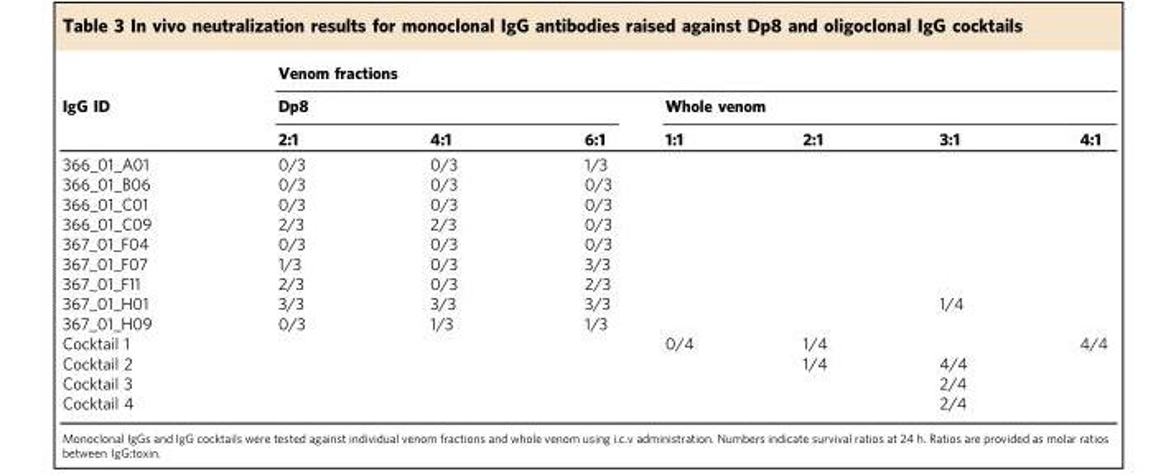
<table><thead><tr><td rowspan="3">IgG ID</td><td colspan="7">Venom fractions</td></tr><tr><td colspan="3">Dp8</td><td colspan="4">Whole venom</td></tr><tr><td>2:1</td><td>4:1</td><td>6:1</td><td>1:1</td><td>2:1</td><td>3:1</td><td>4:1</td></tr></thead><tbody><tr><td>366_01_A01</td><td>0/3</td><td>0/3</td><td>1/3</td><td></td><td></td><td></td><td></td></tr><tr><td>366_01_B06</td><td>0/3</td><td>0/3</td><td>0/3</td><td></td><td></td><td></td><td></td></tr><tr><td>366_01_C01</td><td>0/3</td><td>0/3</td><td>0/3</td><td></td><td></td><td></td><td></td></tr><tr><td>366_01_C09</td><td>2/3</td><td>2/3</td><td>0/3</td><td></td><td></td><td></td><td></td></tr><tr><td>367_01_F04</td><td>0/3</td><td>0/3</td><td>0/3</td><td></td><td></td><td></td><td></td></tr><tr><td>367_01_F07</td><td>1/3</td><td>0/3</td><td>3/3</td><td></td><td></td><td></td><td></td></tr><tr><td>367_01_F11</td><td>2/3</td><td>0/3</td><td>2/3</td><td></td><td></td><td></td><td></td></tr><tr><td>367_01_H01</td><td>3/3</td><td>3/3</td><td>3/3</td><td></td><td></td><td>1/4</td><td></td></tr><tr><td>367_01_H09</td><td>0/3</td><td>1/3</td><td>1/3</td><td></td><td></td><td></td><td></td></tr><tr><td>Cocktail 1</td><td></td><td></td><td></td><td>0/4</td><td>1/4</td><td></td><td>4/4</td></tr><tr><td>Cocktail 2</td><td></td><td></td><td></td><td></td><td>1/4</td><td>4/4</td><td></td></tr><tr><td>Cocktail 3</td><td></td><td></td><td></td><td></td><td></td><td>2/4</td><td></td></tr><tr><td>Cocktail 4</td><td></td><td></td><td></td><td></td><td></td><td>2/4</td><td></td></tr></tbody></table>